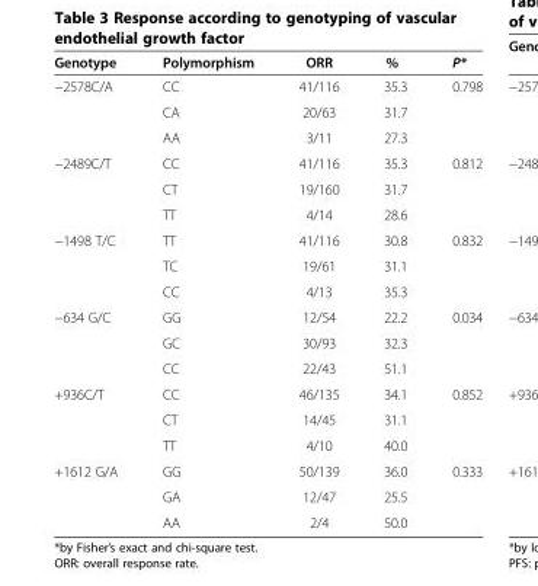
<table><thead><tr><td>Genotype</td><td>Polymorphism</td><td>ORR</td><td>%</td><td>P*</td></tr></thead><tbody><tr><td rowspan="3">−2578C/A</td><td>CC</td><td>41/116</td><td>35.3</td><td>0.798</td></tr><tr><td>CA</td><td>20/63</td><td>31.7</td><td></td></tr><tr><td>AA</td><td>3/11</td><td>27.3</td><td></td></tr><tr><td rowspan="3">−2489C/T</td><td>CC</td><td>41/116</td><td>35.3</td><td>0.812</td></tr><tr><td>CT</td><td>19/160</td><td>31.7</td><td></td></tr><tr><td>TT</td><td>4/14</td><td>28.6</td><td></td></tr><tr><td rowspan="3">−1498 T/C</td><td>TT</td><td>41/116</td><td>30.8</td><td>0.832</td></tr><tr><td>TC</td><td>19/61</td><td>31.1</td><td></td></tr><tr><td>CC</td><td>4/13</td><td>35.3</td><td></td></tr><tr><td rowspan="3">−634 G/C</td><td>GG</td><td>12/54</td><td>22.2</td><td>0.034</td></tr><tr><td>GC</td><td>30/93</td><td>32.3</td><td></td></tr><tr><td>CC</td><td>22/43</td><td>51.1</td><td></td></tr><tr><td rowspan="3">+936C/T</td><td>CC</td><td>46/135</td><td>34.1</td><td>0.852</td></tr><tr><td>CT</td><td>14/45</td><td>31.1</td><td></td></tr><tr><td>TT</td><td>4/10</td><td>40.0</td><td></td></tr><tr><td rowspan="3">+1612 G/A</td><td>GG</td><td>50/139</td><td>36.0</td><td>0.333</td></tr><tr><td>GA</td><td>12/47</td><td>25.5</td><td></td></tr><tr><td>AA</td><td>2/4</td><td>50.0</td><td></td></tr></tbody></table>